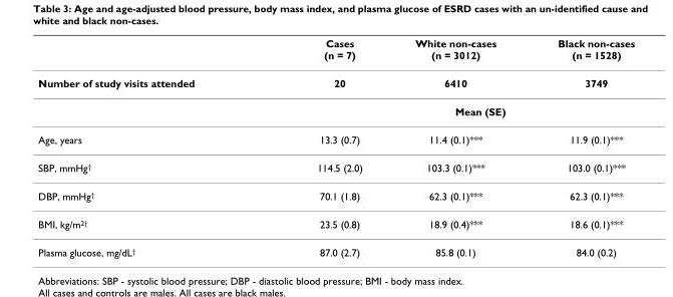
<table><thead><tr><td></td><td>Cases (n = 7)</td><td>White non-cases (n = 3012)</td><td>Black non-cases (n = 1528)</td></tr></thead><tbody><tr><td rowspan="2">Number of study visits attended</td><td>20</td><td>6410</td><td>3749</td></tr><tr><td colspan="3">Mean (SE)</td></tr><tr><td>Age, years</td><td>13.3 (0.7)</td><td>11.4 (0.1)***</td><td>11.9 (0.1)***</td></tr><tr><td>SBP, mmHg<sup>†</sup></td><td>114.5 (2.0)</td><td>103.3 (0.1)***</td><td>103.0 (0.1)***</td></tr><tr><td>DBP, mmHg<sup>†</sup></td><td>70.1 (1.8)</td><td>62.3 (0.1)***</td><td>62.3 (0.1)***</td></tr><tr><td>BMI, kg/m<sup>2†</sup></td><td>23.5 (0.8)</td><td>18.9 (0.4)***</td><td>18.6 (0.1)***</td></tr><tr><td>Plasma glucose, mg/dL<sup>†</sup></td><td>87.0 (2.7)</td><td>85.8 (0.1)</td><td>84.0 (0.2)</td></tr></tbody></table>